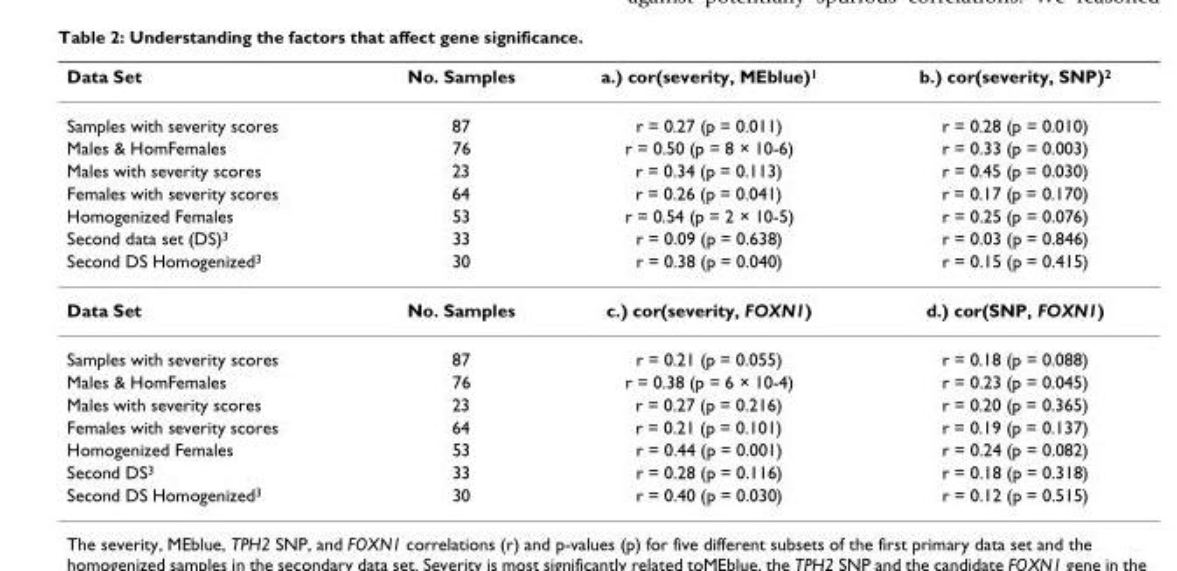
<table><thead><tr><td>Data Set</td><td>No. Samples</td><td>a.) cor(severity, MEblue)<sup>1</sup></td><td>b.) cor(severity, SNP)<sup>2</sup></td></tr></thead><tbody><tr><td>Samples with severity scores</td><td>87</td><td>r = 0.27 (p = 0.011)</td><td>r = 0.28 (p = 0.010)</td></tr><tr><td>Males &amp; HomFemales</td><td>76</td><td>r = 0.50 (p = 8 × 10-6)</td><td>r = 0.33 (p = 0.003)</td></tr><tr><td>Males with severity scores</td><td>23</td><td>r = 0.34 (p = 0.113)</td><td>r = 0.45 (p = 0.030)</td></tr><tr><td>Females with severity scores</td><td>64</td><td>r = 0.26 (p = 0.041)</td><td>r = 0.17 (p = 0.170)</td></tr><tr><td>Homogenized Females</td><td>53</td><td>r = 0.54 (p = 2 × 10-5)</td><td>r = 0.25 (p = 0.076)</td></tr><tr><td>Second data set (DS)<sup>3</sup></td><td>33</td><td>r = 0.09 (p = 0.638)</td><td>r = 0.03 (p = 0.846)</td></tr><tr><td>Second DS Homogenized<sup>3</sup></td><td>30</td><td>r = 0.38 (p = 0.040)</td><td>r = 0.15 (p = 0.415)</td></tr><tr><td>Data Set</td><td>No. Samples</td><td>c.) cor(severity, FOXN1)</td><td>d.) cor(SNP, FOXN1)</td></tr><tr><td>Samples with severity scores</td><td>87</td><td>r = 0.21 (p = 0.055)</td><td>r = 0.18 (p = 0.088)</td></tr><tr><td>Males &amp; HomFemales</td><td>76</td><td>r = 0.38 (p = 6 × 10-4)</td><td>r = 0.23 (p = 0.045)</td></tr><tr><td>Males with severity scores</td><td>23</td><td>r = 0.27 (p = 0.216)</td><td>r = 0.20 (p = 0.365)</td></tr><tr><td>Females with severity scores</td><td>64</td><td>r = 0.21 (p = 0.101)</td><td>r = 0.19 (p = 0.137)</td></tr><tr><td>Homogenized Females</td><td>53</td><td>r = 0.44 (p = 0.001)</td><td>r = 0.24 (p = 0.082)</td></tr><tr><td>Second DS<sup>3</sup></td><td>33</td><td>r = 0.28 (p = 0.116)</td><td>r = 0.18 (p = 0.318)</td></tr><tr><td>Second DS Homogenized<sup>3</sup></td><td>30</td><td>r = 0.40 (p = 0.030)</td><td>r = 0.12 (p = 0.515)</td></tr></tbody></table>